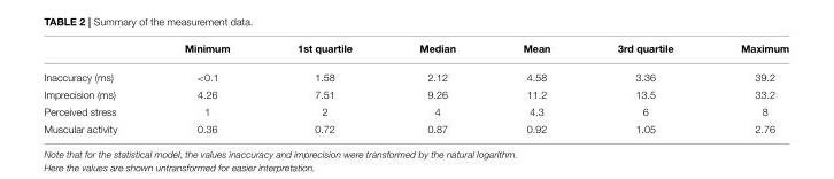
<table><thead><tr><td></td><td>Minimum</td><td>1st quartile</td><td>Median</td><td>Mean</td><td>3rd quartile</td><td>Maximum</td></tr></thead><tbody><tr><td>Inaccuracy (ms)</td><td>&lt;0.1</td><td>1.58</td><td>2.12</td><td>4.58</td><td>3.36</td><td>39.2</td></tr><tr><td>Imprecision (ms)</td><td>4.26</td><td>7.51</td><td>9.26</td><td>11.2</td><td>13.5</td><td>33.2</td></tr><tr><td>Perceived stress</td><td>1</td><td>2</td><td>4</td><td>4.3</td><td>6</td><td>8</td></tr><tr><td>Muscular activity</td><td>0.36</td><td>0.72</td><td>0.87</td><td>0.92</td><td>1.05</td><td>2.76</td></tr></tbody></table>